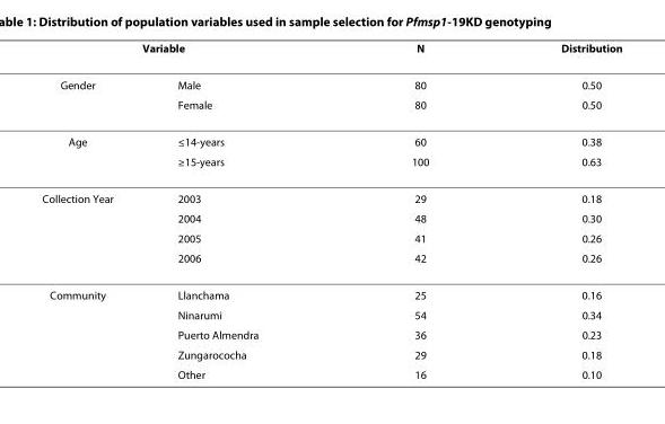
<table><thead><tr><td colspan="2">Variable</td><td rowspan="2">N 80</td><td rowspan="2">Distribution 0.50</td></tr><tr><td>Gender</td><td>Male</td></tr></thead><tbody><tr><td></td><td>Female</td><td>80</td><td>0.50</td></tr><tr><td rowspan="2">Age</td><td>≤14-years</td><td>60</td><td>0.38</td></tr><tr><td>≥15-years</td><td>100</td><td>0.63</td></tr><tr><td rowspan="4">Collection Year</td><td>2003</td><td>29</td><td>0.18</td></tr><tr><td>2004</td><td>48</td><td>0.30</td></tr><tr><td>2005</td><td>41</td><td>0.26</td></tr><tr><td>2006</td><td>42</td><td>0.26</td></tr><tr><td rowspan="5">Community</td><td>Llanchama</td><td>25</td><td>0.16</td></tr><tr><td>Ninarumi</td><td>54</td><td>0.34</td></tr><tr><td>Puerto Almendra</td><td>36</td><td>0.23</td></tr><tr><td>Zungarococha</td><td>29</td><td>0.18</td></tr><tr><td>Other</td><td>16</td><td>0.10</td></tr></tbody></table>